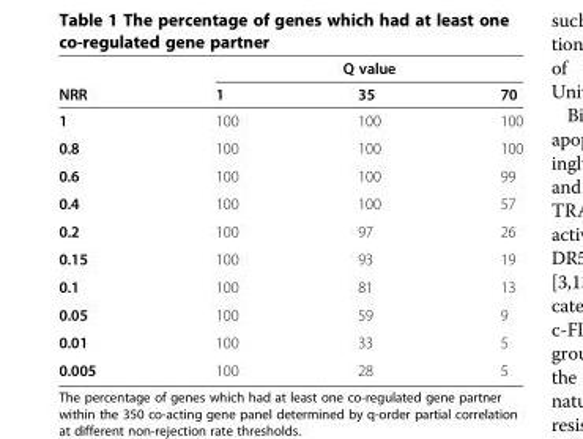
<table><thead><tr><td rowspan="2">NRR</td><td colspan="3">Q value</td></tr><tr><td>1</td><td>35</td><td>70</td></tr></thead><tbody><tr><td>1</td><td>100</td><td>100</td><td>100</td></tr><tr><td>0.8</td><td>100</td><td>100</td><td>100</td></tr><tr><td>0.6</td><td>100</td><td>100</td><td>99</td></tr><tr><td>0.4</td><td>100</td><td>100</td><td>57</td></tr><tr><td>0.2</td><td>100</td><td>97</td><td>26</td></tr><tr><td>0.15</td><td>100</td><td>93</td><td>19</td></tr><tr><td>0.1</td><td>100</td><td>81</td><td>13</td></tr><tr><td>0.05</td><td>100</td><td>59</td><td>9</td></tr><tr><td>0.01</td><td>100</td><td>33</td><td>5</td></tr><tr><td>0.005</td><td>100</td><td>28</td><td>5</td></tr></tbody></table>